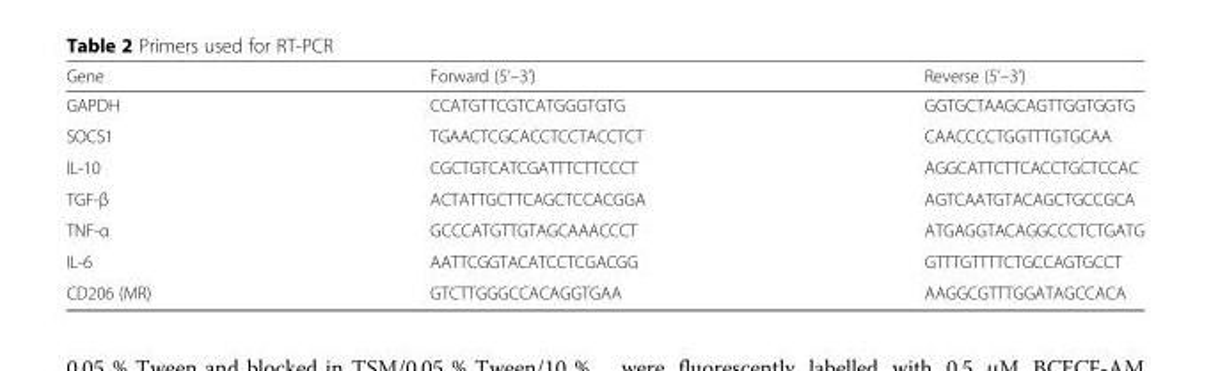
<table><thead><tr><td>Gene</td><td>Forward (5’–3’)</td><td>Reverse (5’–3’)</td></tr></thead><tbody><tr><td>GAPDH</td><td>CCATGTTCGTCATGGGTGTG</td><td>GGTGCTAAGCAGTTGGTGGTG</td></tr><tr><td>SOCS1</td><td>TGAACTCGCACCTCCTACCTCT</td><td>CAACCCCTGGTTTGTGCAA</td></tr><tr><td>IL-10</td><td>CGCTGTCATCGATTTCTTCCCT</td><td>AGGCATTCTTCACCTGCTCCAC</td></tr><tr><td>TGF-β</td><td>ACTATTGCTTCAGCTCCACGGA</td><td>AGTCAATGTACAGCTGCCGCA</td></tr><tr><td>TNF-α</td><td>GCCCATGTTGTAGCAAACCCT</td><td>ATGAGGTACAGGCCCTCTGATG</td></tr><tr><td>IL-6</td><td>AATTCGGTACATCCTCGACGG</td><td>GTTTGTTTTCTGCCAGTGCCT</td></tr><tr><td>CD206 (MR)</td><td>GTCTTGGGCCACAGGTGAA</td><td>AAGGCGTTTGGATAGCCACA</td></tr></tbody></table>